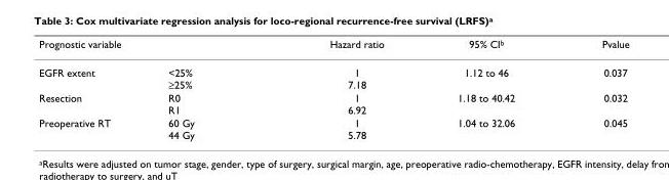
<table><thead><tr><td>Prognostic variable</td><td></td><td>Hazard ratio</td><td>95% CIb</td><td>Pvalue</td></tr></thead><tbody><tr><td>EGFR extent</td><td>&lt;25% ≥25%</td><td>1 7.18</td><td>1.12 to 46</td><td>0.037</td></tr><tr><td>Resection</td><td>R0 R1</td><td>1 6.92</td><td>1.18 to 40.42</td><td>0.032</td></tr><tr><td>Preoperative RT</td><td>60 Gy 44 Gy</td><td>1 5.78</td><td>1.04 to 32.06</td><td>0.045</td></tr></tbody></table>